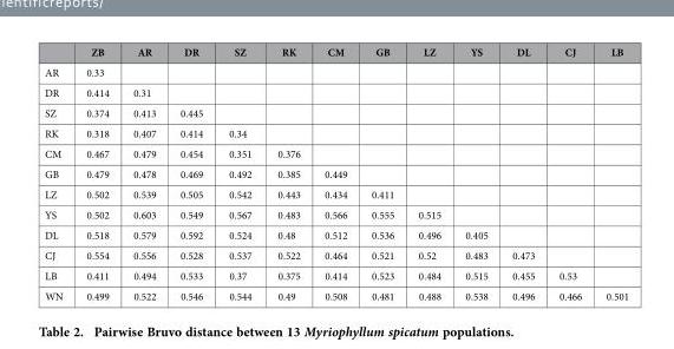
<table><thead><tr><td></td><td>ZB</td><td>AR</td><td>DR</td><td>SZ</td><td>RK</td><td>CM</td><td>GB</td><td>LZ</td><td>YS</td><td>DL</td><td>CJ</td><td>LB</td></tr></thead><tbody><tr><td>AR</td><td>0.33</td><td></td><td></td><td></td><td></td><td></td><td></td><td></td><td></td><td></td><td></td><td></td></tr><tr><td>DR</td><td>0.414</td><td>0.31</td><td></td><td></td><td></td><td></td><td></td><td></td><td></td><td></td><td></td><td></td></tr><tr><td>SZ</td><td>0.374</td><td>0.413</td><td>0.445</td><td></td><td></td><td></td><td></td><td></td><td></td><td></td><td></td><td></td></tr><tr><td>RK</td><td>0.318</td><td>0.407</td><td>0.414</td><td>0.34</td><td></td><td></td><td></td><td></td><td></td><td></td><td></td><td></td></tr><tr><td>CM</td><td>0.467</td><td>0.479</td><td>0.454</td><td>0.351</td><td>0.376</td><td></td><td></td><td></td><td></td><td></td><td></td><td></td></tr><tr><td>GB</td><td>0.479</td><td>0.478</td><td>0.469</td><td>0.492</td><td>0.385</td><td>0.449</td><td></td><td></td><td></td><td></td><td></td><td></td></tr><tr><td>LZ</td><td>0.502</td><td>0.539</td><td>0.505</td><td>0.542</td><td>0.443</td><td>0.434</td><td>0.411</td><td></td><td></td><td></td><td></td><td></td></tr><tr><td>YS</td><td>0.502</td><td>0.603</td><td>0.549</td><td>0.567</td><td>0.483</td><td>0.566</td><td>0.555</td><td>0.515</td><td></td><td></td><td></td><td></td></tr><tr><td>DL</td><td>0.518</td><td>0.579</td><td>0.592</td><td>0.524</td><td>0.48</td><td>0.512</td><td>0.536</td><td>0.496</td><td>0.405</td><td></td><td></td><td></td></tr><tr><td>CJ</td><td>0.554</td><td>0.556</td><td>0.528</td><td>0.537</td><td>0.522</td><td>0.464</td><td>0.521</td><td>0.52</td><td>0.483</td><td>0.473</td><td></td><td></td></tr><tr><td>LB</td><td>0.411</td><td>0.494</td><td>0.533</td><td>0.37</td><td>0.375</td><td>0.414</td><td>0.523</td><td>0.484</td><td>0.515</td><td>0.455</td><td>0.53</td><td></td></tr><tr><td>WN</td><td>0.499</td><td>0.522</td><td>0.546</td><td>0.544</td><td>0.49</td><td>0.508</td><td>0.481</td><td>0.488</td><td>0.538</td><td>0.496</td><td>0.466</td><td>0.501</td></tr></tbody></table>